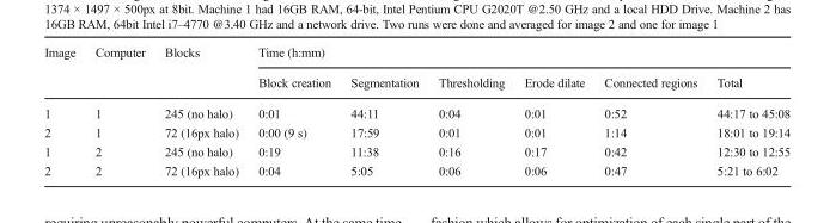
<table><thead><tr><td rowspan="2">Image</td><td rowspan="2">Computer</td><td rowspan="2">Blocks</td><td colspan="6">Time (h:mm)</td></tr><tr><td>Block creation</td><td>Segmentation</td><td>Thresholding</td><td>Erode dilate</td><td>Connected regions</td><td>Total</td></tr></thead><tbody><tr><td>1</td><td>1</td><td>245 (no halo)</td><td>0:01</td><td>44:11</td><td>0:04</td><td>0:01</td><td>0:52</td><td>44:17 to 45:08</td></tr><tr><td>2</td><td>1</td><td>72 (16px halo)</td><td>0:00 (9 s)</td><td>17:59</td><td>0:01</td><td>0:01</td><td>1:14</td><td>18:01 to 19:14</td></tr><tr><td>1</td><td>2</td><td>245 (no halo)</td><td>0:19</td><td>11:38</td><td>0:16</td><td>0:17</td><td>0:42</td><td>12:30 to 12:55</td></tr><tr><td>2</td><td>2</td><td>72 (16px halo)</td><td>0:04</td><td>5:05</td><td>0:06</td><td>0:06</td><td>0:47</td><td>5:21 to 6:02</td></tr></tbody></table>